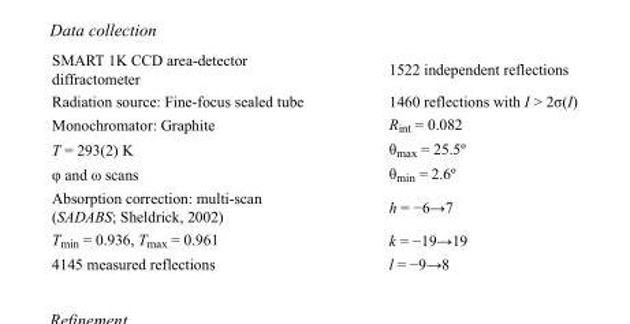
<table><tbody><tr><td>SMART 1K CCD area-detector diffractometer</td><td>1522 independent reflections</td></tr><tr><td>Radiation source: Fine-focus sealed tube</td><td>1460 reflections with I &gt; 2σ(I)</td></tr><tr><td>Monochromator: Graphite</td><td>R<sub>int</sub> = 0.082</td></tr><tr><td>T = 293(2) K</td><td>θ<sub>max</sub> = 25.5º</td></tr><tr><td>φ and ω scans</td><td>θ<sub>min</sub> = 2.6º</td></tr><tr><td>Absorption correction: multi-scan (SADABS; Sheldrick, 2002)</td><td>h = −6→7</td></tr><tr><td>T<sub>min</sub> = 0.936, T<sub>max</sub> = 0.961</td><td>k = −19→19</td></tr><tr><td>4145 measured reflections</td><td>l = −9→8</td></tr></tbody></table>